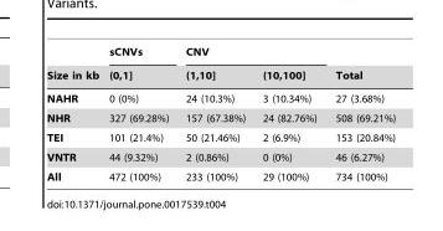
<table><thead><tr><td rowspan="2">Size in kb</td><td rowspan="2">sCNVs (0,1]</td><td colspan="2">CNV</td><td rowspan="2">Total</td></tr><tr><td>(1,10]</td><td>(10,100]</td></tr></thead><tbody><tr><td>NAHR</td><td>0 (0%)</td><td>24 (10.3%)</td><td>3 (10.34%)</td><td>27 (3.68%)</td></tr><tr><td>NHR</td><td>327 (69.28%)</td><td>157 (67.38%)</td><td>24 (82.76%)</td><td>508 (69.21%)</td></tr><tr><td>TEI</td><td>101 (21.4%)</td><td>50 (21.46%)</td><td>2 (6.9%)</td><td>153 (20.84%)</td></tr><tr><td>VNTR</td><td>44 (9.32%)</td><td>2 (0.86%)</td><td>0 (0%)</td><td>46 (6.27%)</td></tr><tr><td>All</td><td>472 (100%)</td><td>233 (100%)</td><td>29 (100%)</td><td>734 (100%)</td></tr></tbody></table>